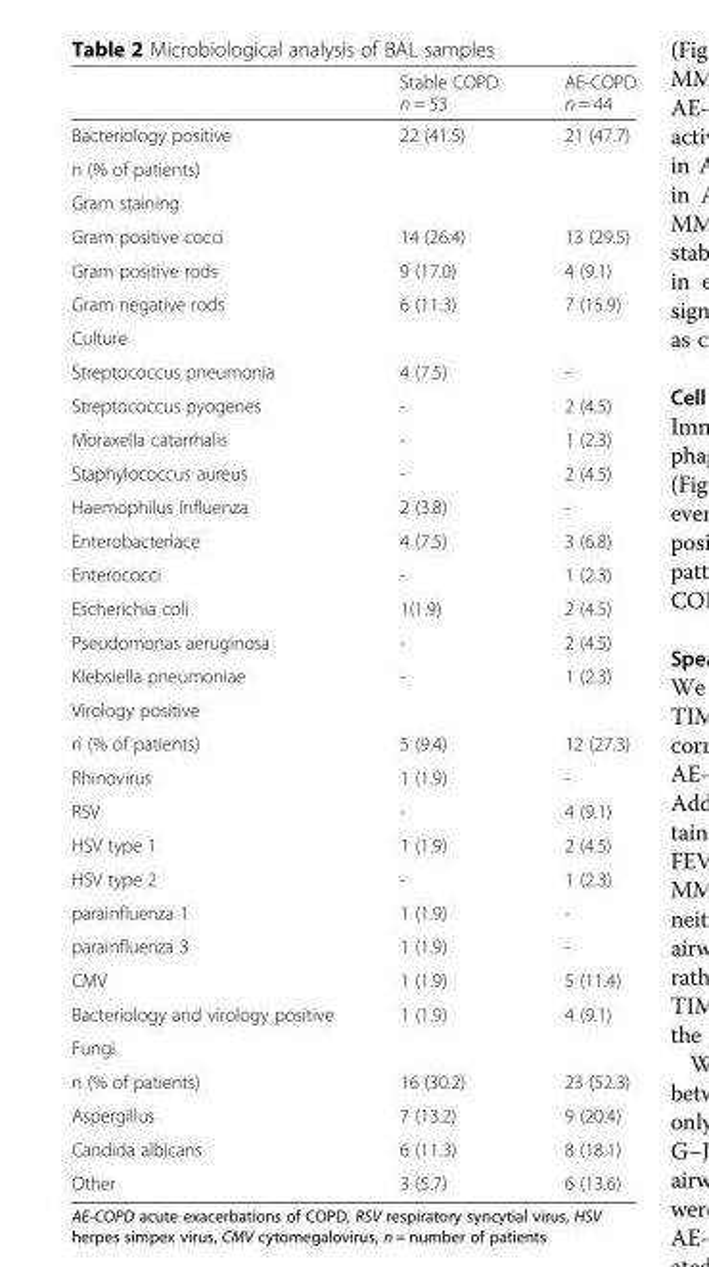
<table><thead><tr><td></td><td>Stable COPD n = 53</td><td>AE-COPD n = 44</td></tr></thead><tbody><tr><td>Bacteriology positive</td><td rowspan="2">22 (41.5)</td><td rowspan="2">21 (47.7)</td></tr><tr><td>n (% of patients)</td></tr><tr><td colspan="3">Gram staining</td></tr><tr><td>Gram positive cocci</td><td>14 (26.4)</td><td>13 (29.5)</td></tr><tr><td>Gram positive rods</td><td>9 (17.0)</td><td>4 (9.1)</td></tr><tr><td>Gram negative rods</td><td>6 (11.3)</td><td>7 (15.9)</td></tr><tr><td colspan="3">Culture</td></tr><tr><td>Streptococcus pneumonia</td><td>4 (7.5)</td><td>-</td></tr><tr><td>Streptococcus pyogenes</td><td>-</td><td>2 (4.5)</td></tr><tr><td>Moraxella catarrhalis</td><td>-</td><td>1 (2.3)</td></tr><tr><td>Staphylococcus aureus</td><td>-</td><td>2 (4.5)</td></tr><tr><td>Haemophilus influenza</td><td>2 (3.8)</td><td>-</td></tr><tr><td>Enterobacteriace</td><td>4 (7.5)</td><td>3 (6.8)</td></tr><tr><td>Enterococci</td><td>-</td><td>1 (2.3)</td></tr><tr><td>Escherichia coli</td><td>1(1.9)</td><td>2 (4.5)</td></tr><tr><td>Pseudomonas aeruginosa</td><td>-</td><td>2 (4.5)</td></tr><tr><td>Klebsiella pneumoniae</td><td>-</td><td>1 (2.3)</td></tr><tr><td colspan="3">Virology positive</td></tr><tr><td>n (% of patients)</td><td>5 (9.4)</td><td>12 (27.3)</td></tr><tr><td>Rhinovirus</td><td>1 (1.9)</td><td>-</td></tr><tr><td>RSV</td><td>-</td><td>4 (9.1)</td></tr><tr><td>HSV type 1</td><td>1 (1.9)</td><td>2 (4.5)</td></tr><tr><td>HSV type 2</td><td>-</td><td>1 (2.3)</td></tr><tr><td>parainfluenza 1</td><td>1 (1.9)</td><td>-</td></tr><tr><td>parainfluenza 3</td><td>1 (1.9)</td><td>-</td></tr><tr><td>CMV</td><td>1 (1.9)</td><td>5 (11.4)</td></tr><tr><td>Bacteriology and virology positive</td><td>1 (1.9)</td><td>4 (9.1)</td></tr><tr><td colspan="3">Fungi</td></tr><tr><td>n (% of patients)</td><td>16 (30.2)</td><td>23 (52.3)</td></tr><tr><td>Aspergillus</td><td>7 (13.2)</td><td>9 (20.4)</td></tr><tr><td>Candida albicans</td><td>6 (11.3)</td><td>8 (18.1)</td></tr><tr><td>Other</td><td>3 (5.7)</td><td>6 (13.6)</td></tr></tbody></table>